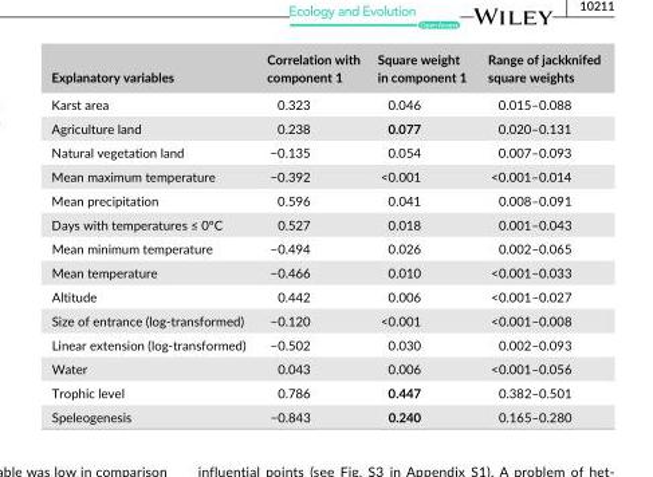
<table><thead><tr><td>Explanatory variables</td><td>Correlation with component 1</td><td>Square weight in component 1</td><td>Range of jackknifed square weights</td></tr></thead><tbody><tr><td>Karst area</td><td>0.323</td><td>0.046</td><td>0.015–0.088</td></tr><tr><td>Agriculture land</td><td>0.238</td><td>0.077</td><td>0.020–0.131</td></tr><tr><td>Natural vegetation land</td><td>−0.135</td><td>0.054</td><td>0.007–0.093</td></tr><tr><td>Mean maximum temperature</td><td>−0.392</td><td>&lt;0.001</td><td>&lt;0.001–0.014</td></tr><tr><td>Mean precipitation</td><td>0.596</td><td>0.041</td><td>0.008–0.091</td></tr><tr><td>Days with temperatures ≤ 0ºC</td><td>0.527</td><td>0.018</td><td>0.001–0.043</td></tr><tr><td>Mean minimum temperature</td><td>−0.494</td><td>0.026</td><td>0.002–0.065</td></tr><tr><td>Mean temperature</td><td>−0.466</td><td>0.010</td><td>&lt;0.001–0.033</td></tr><tr><td>Altitude</td><td>0.442</td><td>0.006</td><td>&lt;0.001–0.027</td></tr><tr><td>Size of entrance (log- transformed)</td><td>−0.120</td><td>&lt;0.001</td><td>&lt;0.001–0.008</td></tr><tr><td>Linear extension (log- transformed)</td><td>−0.502</td><td>0.030</td><td>0.002–0.093</td></tr><tr><td>Water</td><td>0.043</td><td>0.006</td><td>&lt;0.001–0.056</td></tr><tr><td>Trophic level</td><td>0.786</td><td>0.447</td><td>0.382–0.501</td></tr><tr><td>Speleogenesis</td><td>−0.843</td><td>0.240</td><td>0.165–0.280</td></tr></tbody></table>